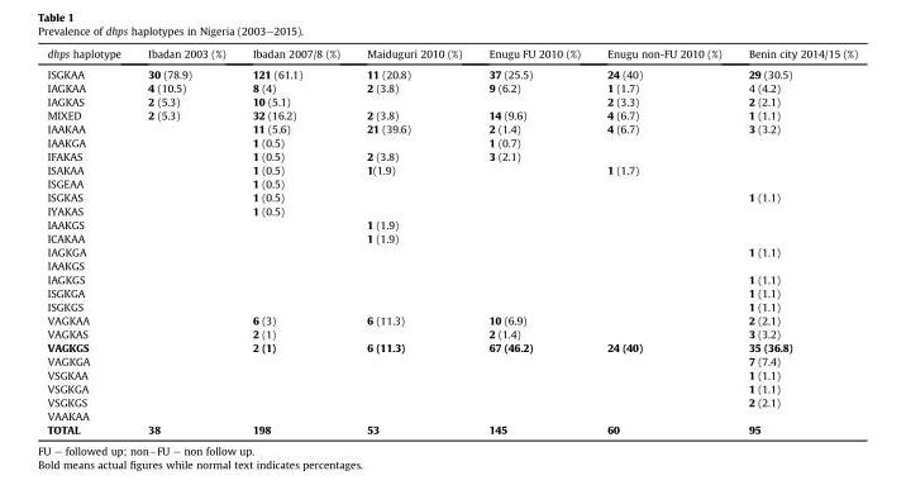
<table><thead><tr><td>dhps haplotype</td><td>Ibadan 2003 (%)</td><td>Ibadan 2007/8 (%)</td><td>Maiduguri 2010 (%)</td><td>Enugu FU 2010 (%)</td><td>Enugu non-FU 2010 (%)</td><td>Benin city 2014/15 (%)</td></tr></thead><tbody><tr><td>ISGKAA</td><td>30 (78.9)</td><td>121 (61.1)</td><td>11 (20.8)</td><td>37 (25.5)</td><td>24 (40)</td><td>29 (30.5)</td></tr><tr><td>IAGKAA</td><td>4 (10.5)</td><td>8 (4)</td><td>2 (3.8)</td><td>9 (6.2)</td><td>1 (1.7)</td><td>4 (4.2)</td></tr><tr><td>IAGKAS</td><td>2 (5.3)</td><td>10 (5.1)</td><td></td><td></td><td>2 (3.3)</td><td>2 (2.1)</td></tr><tr><td>MIXED</td><td>2 (5.3)</td><td>32 (16.2)</td><td>2 (3.8)</td><td>14 (9.6)</td><td>4 (6.7)</td><td>1 (1.1)</td></tr><tr><td>IAAKAA</td><td></td><td>11 (5.6)</td><td>21 (39.6)</td><td>2 (1.4)</td><td>4 (6.7)</td><td>3 (3.2)</td></tr><tr><td>IAAKGA</td><td></td><td>1 (0.5)</td><td></td><td>1 (0.7)</td><td></td><td></td></tr><tr><td>IFAKAS</td><td></td><td>1 (0.5)</td><td>2 (3.8)</td><td>3 (2.1)</td><td></td><td></td></tr><tr><td>ISAKAA</td><td></td><td>1 (0.5)</td><td>1(1.9)</td><td></td><td>1 (1.7)</td><td></td></tr><tr><td>ISGEAA</td><td></td><td>1 (0.5)</td><td></td><td></td><td></td><td></td></tr><tr><td>ISGKAS</td><td></td><td>1 (0.5)</td><td></td><td></td><td></td><td>1 (1.1)</td></tr><tr><td>IYAKAS</td><td></td><td>1 (0.5)</td><td></td><td></td><td></td><td></td></tr><tr><td>IAAKGS</td><td></td><td></td><td>1 (1.9)</td><td></td><td></td><td></td></tr><tr><td>ICAKAA</td><td></td><td></td><td>1 (1.9)</td><td></td><td></td><td></td></tr><tr><td>IAGKGA</td><td></td><td></td><td></td><td></td><td></td><td>1 (1.1)</td></tr><tr><td colspan="7">IAAKGS</td></tr><tr><td>IAGKGS</td><td></td><td></td><td></td><td></td><td></td><td>1 (1.1)</td></tr><tr><td>ISGKGA</td><td></td><td></td><td></td><td></td><td></td><td>1 (1.1)</td></tr><tr><td>ISGKGS</td><td></td><td></td><td></td><td></td><td></td><td>1 (1.1)</td></tr><tr><td>VAGKAA</td><td></td><td>6 (3)</td><td>6 (11.3)</td><td>10 (6.9)</td><td></td><td>2 (2.1)</td></tr><tr><td>VAGKAS</td><td></td><td>2 (1)</td><td></td><td>2 (1.4)</td><td></td><td>3 (3.2)</td></tr><tr><td>VAGKGS</td><td></td><td>2 (1)</td><td>6 (11.3)</td><td>67 (46.2)</td><td>24 (40)</td><td>35 (36.8)</td></tr><tr><td>VAGKGA</td><td></td><td></td><td></td><td></td><td></td><td>7 (7.4)</td></tr><tr><td>VSGKAA</td><td></td><td></td><td></td><td></td><td></td><td>1 (1.1)</td></tr><tr><td>VSGKGA</td><td></td><td></td><td></td><td></td><td></td><td>1 (1.1)</td></tr><tr><td>VSGKGS</td><td></td><td></td><td></td><td></td><td></td><td>2 (2.1)</td></tr><tr><td colspan="7">VAAKAA</td></tr><tr><td>TOTAL</td><td>38</td><td>198</td><td>53</td><td>145</td><td>60</td><td>95</td></tr></tbody></table>